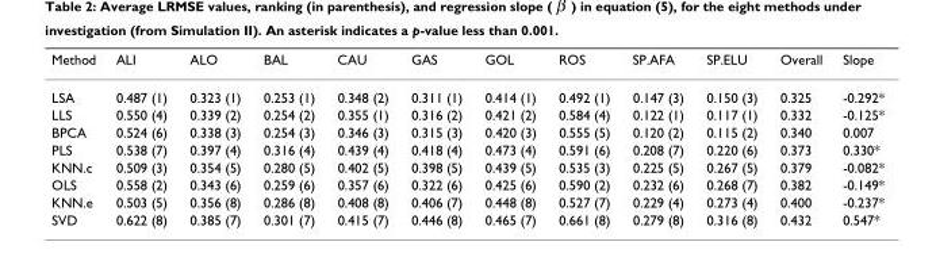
<table><thead><tr><td>Method</td><td>ALI</td><td>ALO</td><td>BAL</td><td>CAU</td><td>GAS</td><td>GOL</td><td>ROS</td><td>SP.AFA</td><td>SP.ELU</td><td>Overall</td><td>Slope</td></tr></thead><tbody><tr><td>LSA</td><td>0.487 (1)</td><td>0.323 (1)</td><td>0.253 (1)</td><td>0.348 (2)</td><td>0.311 (1)</td><td>0.414 (1)</td><td>0.492 (1)</td><td>0.147 (3)</td><td>0.150 (3)</td><td>0.325</td><td>-0.292*</td></tr><tr><td>LLS</td><td>0.550 (4)</td><td>0.339 (2)</td><td>0.254 (2)</td><td>0.355 (1)</td><td>0.316 (2)</td><td>0.421 (2)</td><td>0.584 (4)</td><td>0.122 (1)</td><td>0.117 (1)</td><td>0.332</td><td>-0.125*</td></tr><tr><td>BPCA</td><td>0.524 (6)</td><td>0.338 (3)</td><td>0.254 (3)</td><td>0.346 (3)</td><td>0.315 (3)</td><td>0.420 (3)</td><td>0.555 (5)</td><td>0.120 (2)</td><td>0.115 (2)</td><td>0.340</td><td>0.007</td></tr><tr><td>PLS</td><td>0.538 (7)</td><td>0.397 (4)</td><td>0.316 (4)</td><td>0.439 (4)</td><td>0.418 (4)</td><td>0.473 (4)</td><td>0.591 (6)</td><td>0.208 (7)</td><td>0.220 (6)</td><td>0.373</td><td>0.330*</td></tr><tr><td>KNN.c</td><td>0.509 (3)</td><td>0.354 (5)</td><td>0.280 (5)</td><td>0.402 (5)</td><td>0.398 (5)</td><td>0.439 (5)</td><td>0.535 (3)</td><td>0.225 (5)</td><td>0.267 (5)</td><td>0.379</td><td>-0.082*</td></tr><tr><td>OLS</td><td>0.558 (2)</td><td>0.343 (6)</td><td>0.259 (6)</td><td>0.357 (6)</td><td>0.322 (6)</td><td>0.425 (6)</td><td>0.590 (2)</td><td>0.232 (6)</td><td>0.268 (7)</td><td>0.382</td><td>-0.149*</td></tr><tr><td>KNN.e</td><td>0.503 (5)</td><td>0.356 (8)</td><td>0.286 (8)</td><td>0.408 (8)</td><td>0.406 (7)</td><td>0.448 (8)</td><td>0.527 (7)</td><td>0.229 (4)</td><td>0.273 (4)</td><td>0.400</td><td>-0.237*</td></tr><tr><td>SVD</td><td>0.622 (8)</td><td>0.385 (7)</td><td>0.301 (7)</td><td>0.415 (7)</td><td>0.446 (8)</td><td>0.465 (7)</td><td>0.661 (8)</td><td>0.279 (8)</td><td>0.316 (8)</td><td>0.432</td><td>0.547*</td></tr></tbody></table>